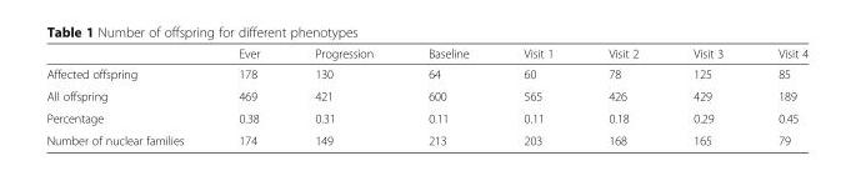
<table><thead><tr><td></td><td>Ever</td><td>Progression</td><td>Baseline</td><td>Visit 1</td><td>Visit 2</td><td>Visit 3</td><td>Visit 4</td></tr></thead><tbody><tr><td>Affected offspring</td><td>178</td><td>130</td><td>64</td><td>60</td><td>78</td><td>125</td><td>85</td></tr><tr><td>All offspring</td><td>469</td><td>421</td><td>600</td><td>565</td><td>426</td><td>429</td><td>189</td></tr><tr><td>Percentage</td><td>0.38</td><td>0.31</td><td>0.11</td><td>0.11</td><td>0.18</td><td>0.29</td><td>0.45</td></tr><tr><td>Number of nuclear families</td><td>174</td><td>149</td><td>213</td><td>203</td><td>168</td><td>165</td><td>79</td></tr></tbody></table>